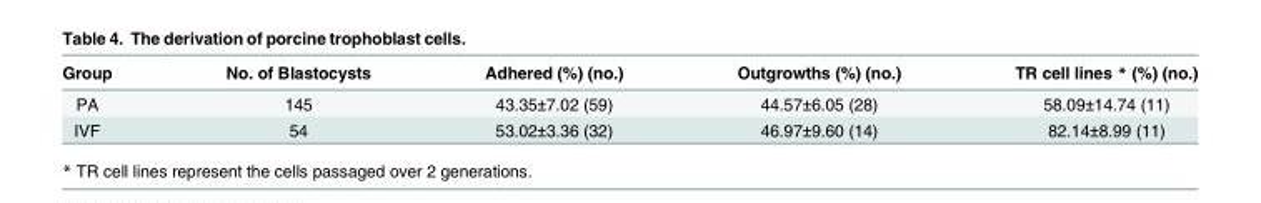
<table><thead><tr><td>Group</td><td>No. of Blastocysts</td><td>Adhered (%) (no.)</td><td>Outgrowths (%) (no.)</td><td>TR cell lines * (%) (no.)</td></tr></thead><tbody><tr><td>PA</td><td>145</td><td>43.35±7.02 (59)</td><td>44.57±6.05 (28)</td><td>58.09±14.74 (11)</td></tr><tr><td>IVF</td><td>54</td><td>53.02±3.36 (32)</td><td>46.97±9.60 (14)</td><td>82.14±8.99 (11)</td></tr></tbody></table>